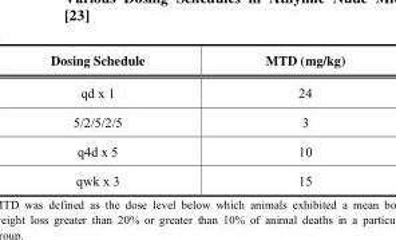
<table><thead><tr><td>Dosing Schedule</td><td>MTD (mg/kg)</td></tr></thead><tbody><tr><td>qd x 1</td><td>24</td></tr><tr><td>5/2/5/2/5</td><td>3</td></tr><tr><td>q4d x 5</td><td>10</td></tr><tr><td>qwk x 3</td><td>15</td></tr></tbody></table>